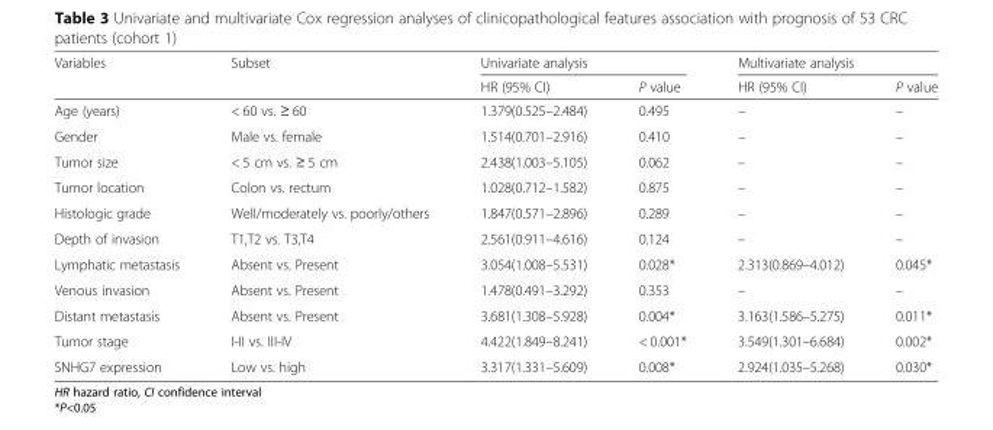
<table><thead><tr><td rowspan="2">Variables</td><td rowspan="2">Subset</td><td colspan="2">Univariate analysis</td><td colspan="2">Multivariate analysis</td></tr><tr><td>HR (95% CI)</td><td>P value</td><td>HR (95% CI)</td><td>P value</td></tr></thead><tbody><tr><td>Age (years)</td><td>&lt; 60 vs. ≥ 60</td><td>1.379(0.525–2.484)</td><td>0.495</td><td>–</td><td>–</td></tr><tr><td>Gender</td><td>Male vs. female</td><td>1.514(0.701–2.916)</td><td>0.410</td><td>–</td><td>–</td></tr><tr><td>Tumor size</td><td>&lt; 5 cm vs. ≥ 5 cm</td><td>2.438(1.003–5.105)</td><td>0.062</td><td>–</td><td>–</td></tr><tr><td>Tumor location</td><td>Colon vs. rectum</td><td>1.028(0.712–1.582)</td><td>0.875</td><td>–</td><td>–</td></tr><tr><td>Histologic grade</td><td>Well/moderately vs. poorly/others</td><td>1.847(0.571–2.896)</td><td>0.289</td><td>–</td><td>–</td></tr><tr><td>Depth of invasion</td><td>T1,T2 vs. T3,T4</td><td>2.561(0.911–4.616)</td><td>0.124</td><td>–</td><td>–</td></tr><tr><td>Lymphatic metastasis</td><td>Absent vs. Present</td><td>3.054(1.008–5.531)</td><td>0.028*</td><td>2.313(0.869–4.012)</td><td>0.045*</td></tr><tr><td>Venous invasion</td><td>Absent vs. Present</td><td>1.478(0.491–3.292)</td><td>0.353</td><td>–</td><td>–</td></tr><tr><td>Distant metastasis</td><td>Absent vs. Present</td><td>3.681(1.308–5.928)</td><td>0.004*</td><td>3.163(1.586–5.275)</td><td>0.011*</td></tr><tr><td>Tumor stage</td><td>I-II vs. III-IV</td><td>4.422(1.849–8.241)</td><td>&lt; 0.001*</td><td>3.549(1.301–6.684)</td><td>0.002*</td></tr><tr><td>SNHG7 expression</td><td>Low vs. high</td><td>3.317(1.331–5.609)</td><td>0.008*</td><td>2.924(1.035–5.268)</td><td>0.030*</td></tr></tbody></table>